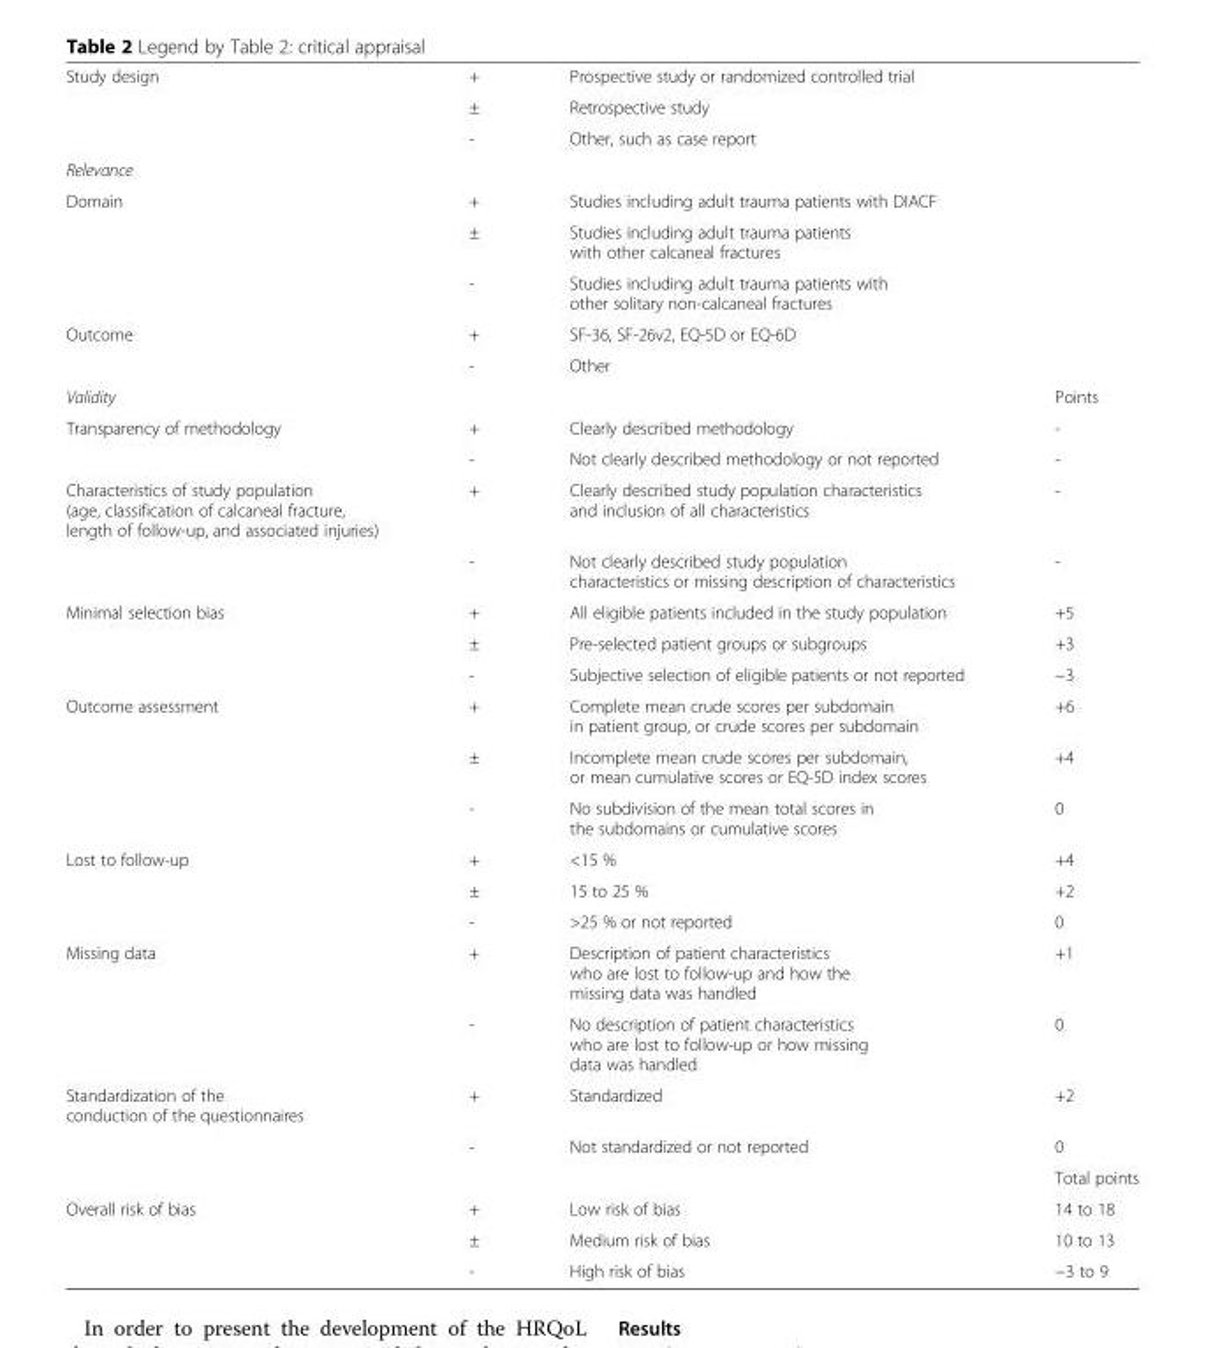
<table><tbody><tr><td rowspan="3">Study design</td><td>+</td><td colspan="2">Prospective study or randomized controlled trial</td></tr><tr><td>±</td><td colspan="2">Retrospective study</td></tr><tr><td>-</td><td colspan="2">Other, such as case report</td></tr><tr><td colspan="4">Relevance</td></tr><tr><td rowspan="3">Domain</td><td>+</td><td colspan="2">Studies including adult trauma patients with DIACF</td></tr><tr><td>±</td><td colspan="2">Studies including adult trauma patients with other calcaneal fractures</td></tr><tr><td>-</td><td colspan="2">Studies including adult trauma patients with other solitary non-calcaneal fractures</td></tr><tr><td rowspan="2">Outcome</td><td>+</td><td colspan="2">SF-36, SF-26v2, EQ-5D or EQ-6D</td></tr><tr><td>-</td><td colspan="2">Other</td></tr><tr><td colspan="3">Validity</td><td>Points</td></tr><tr><td rowspan="2">Transparency of methodology</td><td>+</td><td>Clearly described methodology</td><td>-</td></tr><tr><td>-</td><td>Not clearly described methodology or not reported</td><td>-</td></tr><tr><td rowspan="2">Characteristics of study population (age, classification of calcaneal fracture, length of follow-up, and associated injuries)</td><td>+</td><td>Clearly described study population characteristics and inclusion of all characteristics</td><td>-</td></tr><tr><td>-</td><td>Not clearly described study population characteristics or missing description of characteristics</td><td>-</td></tr><tr><td rowspan="3">Minimal selection bias</td><td>+</td><td>All eligible patients included in the study population</td><td>+5</td></tr><tr><td>±</td><td>Pre-selected patient groups or subgroups</td><td>+3</td></tr><tr><td>-</td><td>Subjective selection of eligible patients or not reported</td><td>−3</td></tr><tr><td rowspan="3">Outcome assessment</td><td>+</td><td>Complete mean crude scores per subdomain in patient group, or crude scores per subdomain</td><td>+6</td></tr><tr><td>±</td><td>Incomplete mean crude scores per subdomain, or mean cumulative scores or EQ-5D index scores</td><td>+4</td></tr><tr><td>-</td><td>No subdivision of the mean total scores in the subdomains or cumulative scores</td><td>0</td></tr><tr><td rowspan="3">Lost to follow-up</td><td>+</td><td>&lt;15 %</td><td>+4</td></tr><tr><td>±</td><td>15 to 25 %</td><td>+2</td></tr><tr><td>-</td><td>&gt;25 % or not reported</td><td>0</td></tr><tr><td rowspan="2">Missing data</td><td>+</td><td>Description of patient characteristics who are lost to follow-up and how the missing data was handled</td><td>+1</td></tr><tr><td>-</td><td>No description of patient characteristics who are lost to follow-up or how missing data was handled</td><td>0</td></tr><tr><td rowspan="2">Standardization of the conduction of the questionnaires</td><td>+</td><td>Standardized</td><td>+2</td></tr><tr><td>-</td><td>Not standardized or not reported</td><td>0</td></tr><tr><td colspan="3"></td><td>Total points</td></tr><tr><td rowspan="3">Overall risk of bias</td><td>+</td><td>Low risk of bias</td><td>14 to 18</td></tr><tr><td>±</td><td>Medium risk of bias</td><td>10 to 13</td></tr><tr><td>-</td><td>High risk of bias</td><td>−3 to 9</td></tr></tbody></table>